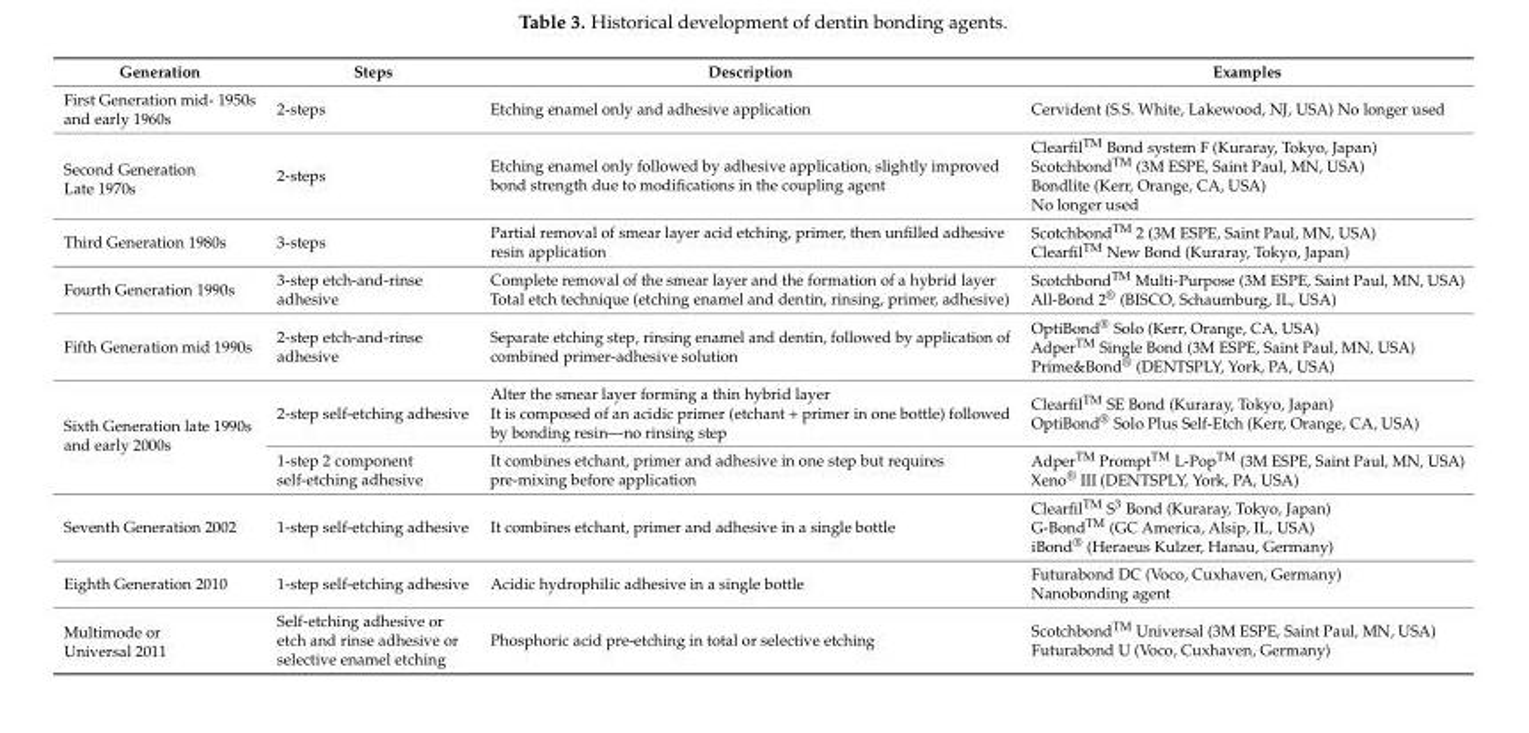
<table><thead><tr><td>Generation</td><td>Steps</td><td>Description</td><td>Examples</td></tr></thead><tbody><tr><td>First Generation mid- 1950s and early 1960s</td><td>2-steps</td><td>Etching enamel only and adhesive application</td><td>Cervident (S.S. White, Lakewood, NJ, USA) No longer used</td></tr><tr><td>Second Generation Late 1970s</td><td>2-steps</td><td>Etching enamel only followed by adhesive application, slightly improved bond strength due to modifications in the coupling agent</td><td>Clearfil<sup>TM</sup> Bond system F (Kuraray, Tokyo, Japan) Scotchbond<sup>TM</sup> (3M ESPE, Saint Paul, MN, USA) Bondlite (Kerr, Orange, CA, USA) No longer used</td></tr><tr><td>Third Generation 1980s</td><td>3-steps</td><td>Partial removal of smear layer acid etching, primer, then unfilled adhesive resin application</td><td>Scotchbond<sup>TM</sup> 2 (3M ESPE, Saint Paul, MN, USA) Clearfil<sup>TM</sup> New Bond (Kuraray, Tokyo, Japan)</td></tr><tr><td>Fourth Generation 1990s</td><td>3-step etch-and-rinse adhesive</td><td>Complete removal of the smear layer and the formation of a hybrid layer Total etch technique (etching enamel and dentin, rinsing, primer, adhesive)</td><td>Scotchbond<sup>TM</sup> Multi-Purpose (3M ESPE, Saint Paul, MN, USA) All-Bond 2<sup>®</sup> (BISCO, Schaumburg, IL, USA)</td></tr><tr><td>Fifth Generation mid 1990s</td><td>2-step etch-and-rinse adhesive</td><td>Separate etching step, rinsing enamel and dentin, followed by application of combined primer-adhesive solution</td><td>OptiBond<sup>®</sup> Solo (Kerr, Orange, CA, USA) Adper<sup>TM</sup> Single Bond (3M ESPE, Saint Paul, MN, USA) Prime&amp;Bond<sup>®</sup> (DENTSPLY, York, PA, USA)</td></tr><tr><td rowspan="2">Sixth Generation late 1990s and early 2000s</td><td>2-step self-etching adhesive</td><td>Alter the smear layer forming a thin hybrid layer It is composed of an acidic primer (etchant + primer in one bottle) followed by bonding resin—no rinsing step</td><td>Clearfil<sup>TM</sup> SE Bond (Kuraray, Tokyo, Japan) OptiBond<sup>®</sup> Solo Plus Self-Etch (Kerr, Orange, CA, USA)</td></tr><tr><td>1-step 2 component self-etching adhesive</td><td>It combines etchant, primer and adhesive in one step but requires pre-mixing before application</td><td>Adper<sup>TM</sup> Prompt<sup>TM</sup> L-Pop<sup>TM</sup> (3M ESPE, Saint Paul, MN, USA) Xeno<sup>®</sup> III (DENTSPLY, York, PA, USA)</td></tr><tr><td>Seventh Generation 2002</td><td>1-step self-etching adhesive</td><td>It combines etchant, primer and adhesive in a single bottle</td><td>Clearfil<sup>TM</sup> S<sup>3</sup> Bond (Kuraray, Tokyo, Japan) G-Bond<sup>TM</sup> (GC America, Alsip, IL, USA) iBond<sup>®</sup> (Heraeus Kulzer, Hanau, Germany)</td></tr><tr><td>Eighth Generation 2010</td><td>1-step self-etching adhesive</td><td>Acidic hydrophilic adhesive in a single bottle</td><td>Futurabond DC (Voco, Cuxhaven, Germany) Nanobonding agent</td></tr><tr><td>Multimode or Universal 2011</td><td>Self-etching adhesive or etch and rinse adhesive or selective enamel etching</td><td>Phosphoric acid pre-etching in total or selective etching</td><td>Scotchbond<sup>TM</sup> Universal (3M ESPE, Saint Paul, MN, USA) Futurabond U (Voco, Cuxhaven, Germany)</td></tr></tbody></table>